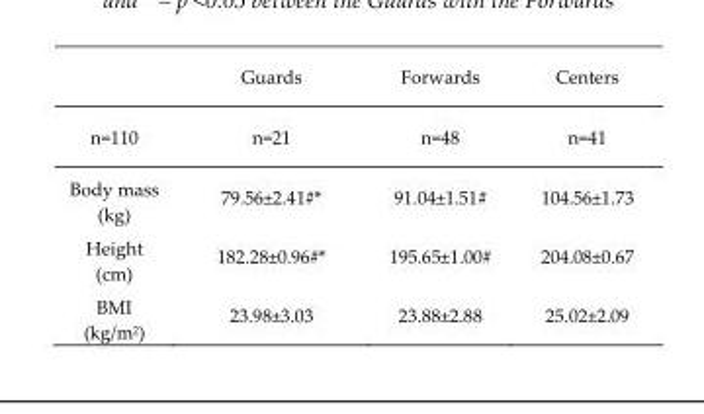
<table><thead><tr><td rowspan="2">n=110</td><td rowspan="2">Guards n=21</td><td rowspan="2">Forwards n=48</td><td rowspan="2">Centers n=41</td></tr><tr></tr></thead><tbody><tr><td>Body mass (kg)</td><td>79.56±2.41#*</td><td>91.04±1.51#</td><td>104.56±1.73</td></tr><tr><td>Height (cm)</td><td>182.28±0.96#*</td><td>195.65±1.00#</td><td>204.08±0.67</td></tr><tr><td>BMI (kg/m<sup>2</sup>)</td><td>23.98±3.03</td><td>23.88±2.88</td><td>25.02±2.09</td></tr></tbody></table>